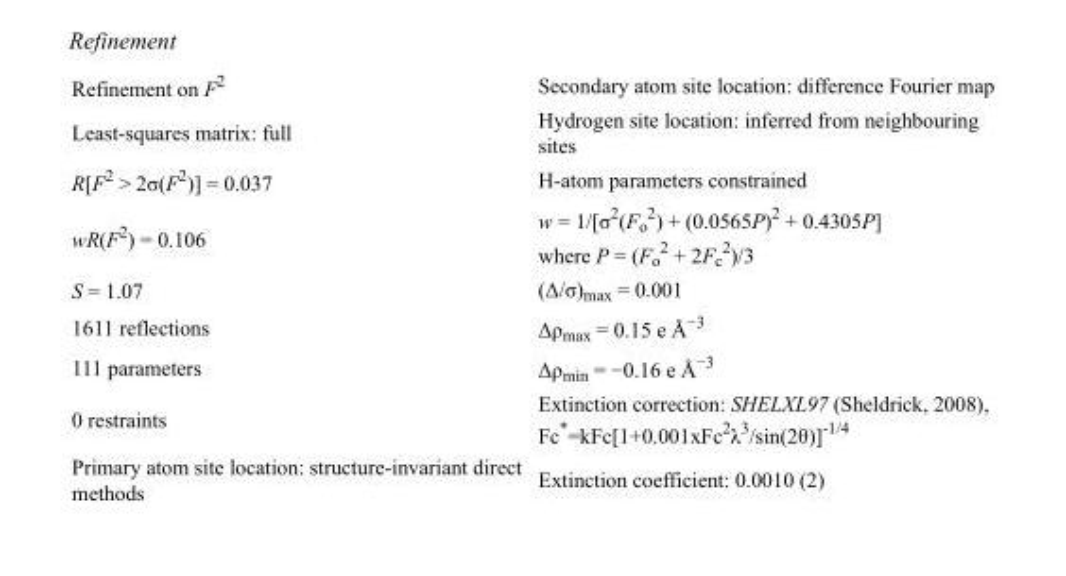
<table><tbody><tr><td>Refinement on F<sup>2</sup></td><td>Secondary atom site location: difference Fourier map</td></tr><tr><td>Least-squares matrix: full</td><td>Hydrogen site location: inferred from neighbouring sites</td></tr><tr><td>R[F<sup>2</sup> &gt; 2σ(F<sup>2</sup>)] = 0.037</td><td>H-atom parameters constrained</td></tr><tr><td>wR(F<sup>2</sup>) = 0.106</td><td>w = 1/[σ<sup>2</sup>(F<sub>o</sub> <sup>2</sup>) + (0.0565P)<sup>2</sup> + 0.4305P] where P = (F<sub>o</sub> <sup>2</sup> + 2F<sub>c</sub> <sup>2</sup>)/3</td></tr><tr><td>S = 1.07</td><td>(Δ/σ)<sub>max</sub> = 0.001</td></tr><tr><td>1611 reflections</td><td>Δρ<sub>max</sub> = 0.15 e Å<sup>−3</sup></td></tr><tr><td>111 parameters</td><td>Δρ<sub>min</sub> = −0.16 e Å<sup>−3</sup></td></tr><tr><td>0 restraints</td><td>Extinction correction: SHELXL97 (Sheldrick, 2008), Fc*=kFc[1+0.001xFc<sup>2</sup>λ<sup>3</sup>/sin(2θ)]<sup>-1/4</sup></td></tr><tr><td>Primary atom site location: structure-invariant direct methods</td><td>Extinction coefficient: 0.0010 (2)</td></tr></tbody></table>